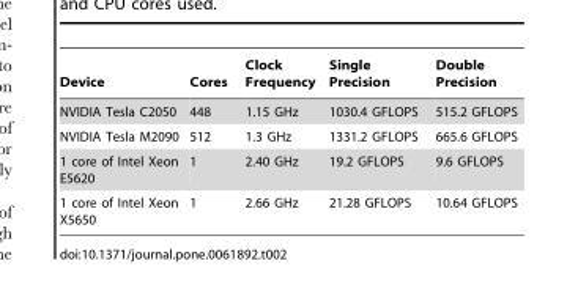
<table><thead><tr><td>Device</td><td>Cores</td><td>Clock Frequency</td><td>Single Precision</td><td>Double Precision</td></tr></thead><tbody><tr><td>NVIDIA Tesla C2050</td><td>448</td><td>1.15 GHz</td><td>1030.4 GFLOPS</td><td>515.2 GFLOPS</td></tr><tr><td>NVIDIA Tesla M2090</td><td>512</td><td>1.3 GHz</td><td>1331.2 GFLOPS</td><td>665.6 GFLOPS</td></tr><tr><td>1 core of Intel Xeon E5620</td><td>1</td><td>2.40 GHz</td><td>19.2 GFLOPS</td><td>9.6 GFLOPS</td></tr><tr><td>1 core of Intel Xeon X5650</td><td>1</td><td>2.66 GHz</td><td>21.28 GFLOPS</td><td>10.64 GFLOPS</td></tr></tbody></table>